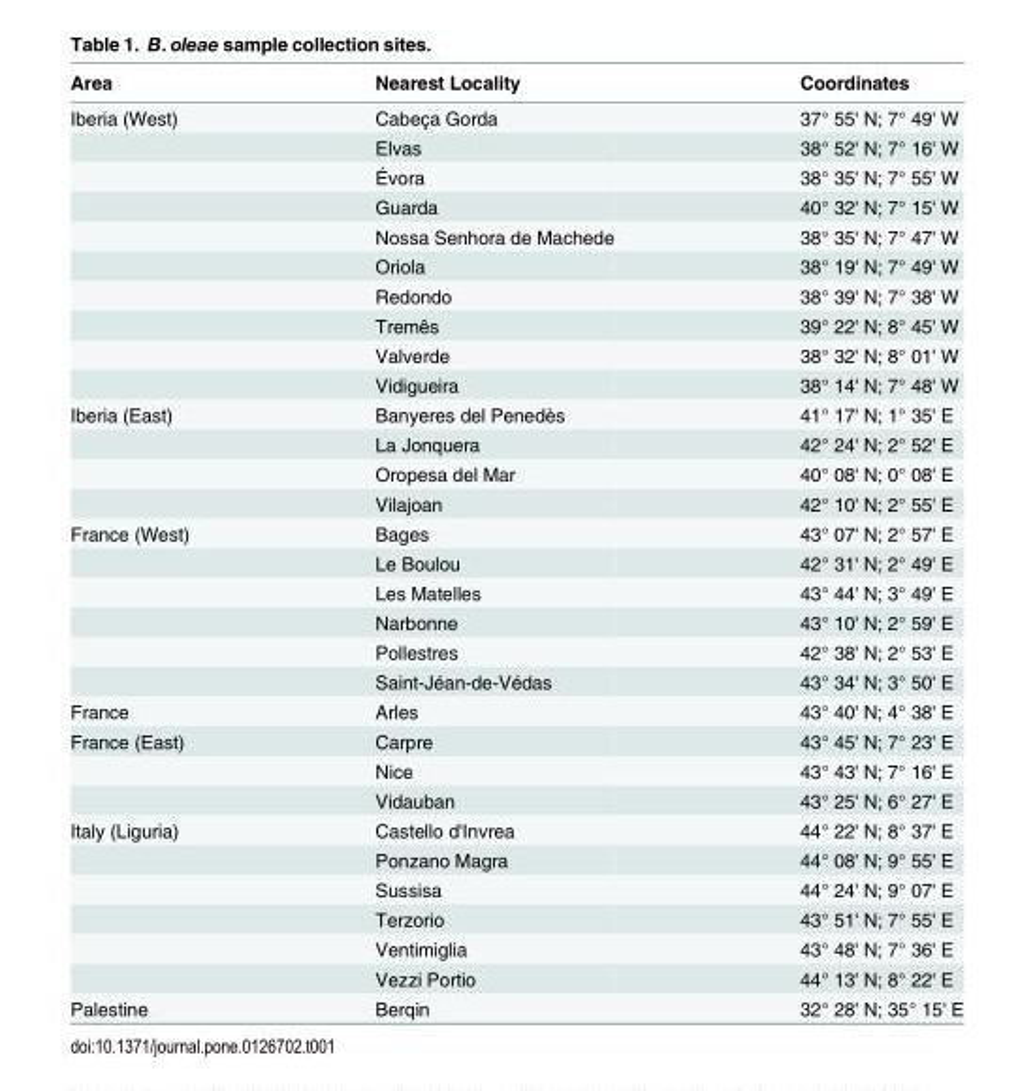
<table><thead><tr><td>Area</td><td>Nearest Locality</td><td>Coordinates</td></tr></thead><tbody><tr><td rowspan="10">Iberia (West)</td><td>Cabeça Gorda</td><td>37° 55&#x27; N; 7° 49&#x27; W</td></tr><tr><td>Elvas</td><td>38° 52&#x27; N; 7° 16&#x27; W</td></tr><tr><td>Évora</td><td>38° 35&#x27; N; 7° 55&#x27; W</td></tr><tr><td>Guarda</td><td>40° 32&#x27; N; 7° 15&#x27; W</td></tr><tr><td>Nossa Senhora de Machede</td><td>38° 35&#x27; N; 7° 47&#x27; W</td></tr><tr><td>Oriola</td><td>38° 19&#x27; N; 7° 49&#x27; W</td></tr><tr><td>Redondo</td><td>38° 39&#x27; N; 7° 38&#x27; W</td></tr><tr><td>Tremês</td><td>39° 22&#x27; N; 8° 45&#x27; W</td></tr><tr><td>Valverde</td><td>38° 32&#x27; N; 8° 01&#x27; W</td></tr><tr><td>Vidigueira</td><td>38° 14&#x27; N; 7° 48&#x27; W</td></tr><tr><td rowspan="4">Iberia (East)</td><td>Banyeres del Penedès</td><td>41° 17&#x27; N; 1° 35&#x27; E</td></tr><tr><td>La Jonquera</td><td>42° 24&#x27; N; 2° 52&#x27; E</td></tr><tr><td>Oropesa del Mar</td><td>40° 08&#x27; N; 0° 08&#x27; E</td></tr><tr><td>Vilajoan</td><td>42° 10&#x27; N; 2° 55&#x27; E</td></tr><tr><td rowspan="6">France (West)</td><td>Bages</td><td>43° 07&#x27; N; 2° 57&#x27; E</td></tr><tr><td>Le Boulou</td><td>42° 31&#x27; N; 2° 49&#x27; E</td></tr><tr><td>Les Matelles</td><td>43° 44&#x27; N; 3° 49&#x27; E</td></tr><tr><td>Narbonne</td><td>43° 10&#x27; N; 2° 59&#x27; E</td></tr><tr><td>Pollestres</td><td>42° 38&#x27; N; 2° 53&#x27; E</td></tr><tr><td>Saint-Jéan-de-Védas</td><td>43° 34&#x27; N; 3° 50&#x27; E</td></tr><tr><td>France</td><td>Arles</td><td>43° 40&#x27; N; 4° 38&#x27; E</td></tr><tr><td rowspan="3">France (East)</td><td>Carpre</td><td>43° 45&#x27; N; 7° 23&#x27; E</td></tr><tr><td>Nice</td><td>43° 43&#x27; N; 7° 16&#x27; E</td></tr><tr><td>Vidauban</td><td>43° 25&#x27; N; 6° 27&#x27; E</td></tr><tr><td rowspan="6">Italy (Liguria)</td><td>Castello d&#x27;Invrea</td><td>44° 22&#x27; N; 8° 37&#x27; E</td></tr><tr><td>Ponzano Magra</td><td>44° 08&#x27; N; 9° 55&#x27; E</td></tr><tr><td>Sussisa</td><td>44° 24&#x27; N; 9° 07&#x27; E</td></tr><tr><td>Terzorio</td><td>43° 51&#x27; N; 7° 55&#x27; E</td></tr><tr><td>Ventimiglia</td><td>43° 48&#x27; N; 7° 36&#x27; E</td></tr><tr><td>Vezzi Portio</td><td>44° 13&#x27; N; 8° 22&#x27; E</td></tr><tr><td>Palestine</td><td>Berqin</td><td>32° 28&#x27; N; 35° 15&#x27; E</td></tr></tbody></table>